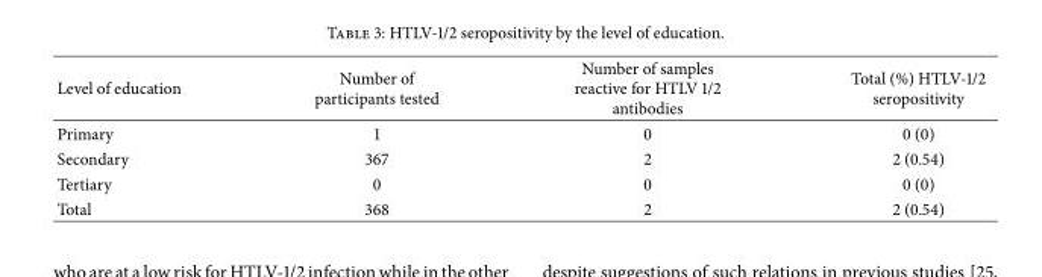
<table><thead><tr><td>Level of education</td><td>Number of participants tested</td><td>Number of samples reactive for HTLV 1/2 antibodies</td><td>Total (%) HTLV-1/2 seropositivity</td></tr></thead><tbody><tr><td>Primary</td><td>1</td><td>0</td><td>0 (0)</td></tr><tr><td>Secondary</td><td>367</td><td>2</td><td>2 (0.54)</td></tr><tr><td>Tertiary</td><td>0</td><td>0</td><td>0 (0)</td></tr><tr><td>Total</td><td>368</td><td>2</td><td>2 (0.54)</td></tr></tbody></table>